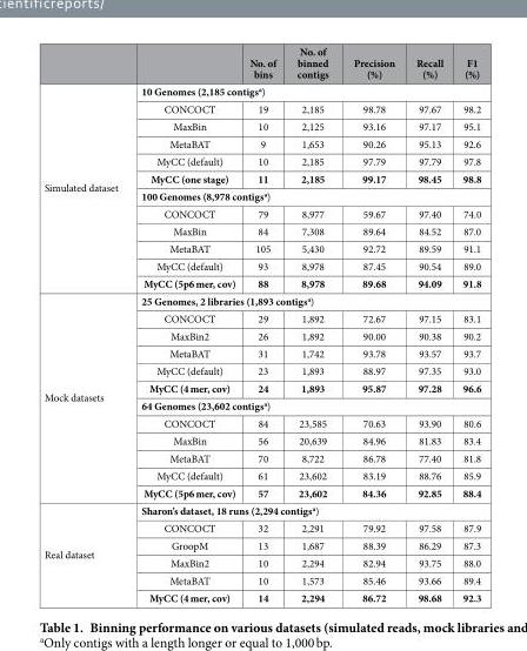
<table><thead><tr><td></td><td></td><td>No. of bins</td><td>No. of binned contigs</td><td>Precision (%)</td><td>Recall (%)</td><td>F1 (%)</td></tr></thead><tbody><tr><td rowspan="12">Simulated dataset</td><td colspan="6">10 Genomes (2,185 contigs<sup>a</sup>)</td></tr><tr><td>CONCOCT</td><td>19</td><td>2,185</td><td>98.78</td><td>97.67</td><td>98.2</td></tr><tr><td>MaxBin</td><td>10</td><td>2,125</td><td>93.16</td><td>97.17</td><td>95.1</td></tr><tr><td>MetaBAT</td><td>9</td><td>1,653</td><td>90.26</td><td>95.13</td><td>92.6</td></tr><tr><td>MyCC (default)</td><td>10</td><td>2,185</td><td>97.79</td><td>97.79</td><td>97.8</td></tr><tr><td>MyCC (one stage)</td><td>11</td><td>2,185</td><td>99.17</td><td>98.45</td><td>98.8</td></tr><tr><td colspan="6">100 Genomes (8,978 contigs<sup>a</sup>)</td></tr><tr><td>CONCOCT</td><td>79</td><td>8,977</td><td>59.67</td><td>97.40</td><td>74.0</td></tr><tr><td>MaxBin</td><td>84</td><td>7,308</td><td>89.64</td><td>84.52</td><td>87.0</td></tr><tr><td>MetaBAT</td><td>105</td><td>5,430</td><td>92.72</td><td>89.59</td><td>91.1</td></tr><tr><td>MyCC (default)</td><td>93</td><td>8,978</td><td>87.45</td><td>90.54</td><td>89.0</td></tr><tr><td>MyCC (5p6 mer, cov)</td><td>88</td><td>8,978</td><td>89.68</td><td>94.09</td><td>91.8</td></tr><tr><td rowspan="12">Mock datasets</td><td colspan="6">25 Genomes, 2 libraries (1,893 contigs<sup>a</sup>)</td></tr><tr><td>CONCOCT</td><td>29</td><td>1,892</td><td>72.67</td><td>97.15</td><td>83.1</td></tr><tr><td>MaxBin2</td><td>26</td><td>1,892</td><td>90.00</td><td>90.38</td><td>90.2</td></tr><tr><td>MetaBAT</td><td>31</td><td>1,742</td><td>93.78</td><td>93.57</td><td>93.7</td></tr><tr><td>MyCC (default)</td><td>23</td><td>1,893</td><td>88.97</td><td>97.35</td><td>93.0</td></tr><tr><td>MyCC (4 mer, cov)</td><td>24</td><td>1,893</td><td>95.87</td><td>97.28</td><td>96.6</td></tr><tr><td colspan="6">64 Genomes (23,602 contigs<sup>a</sup>)</td></tr><tr><td>CONCOCT</td><td>84</td><td>23,585</td><td>70.63</td><td>93.90</td><td>80.6</td></tr><tr><td>MaxBin</td><td>56</td><td>20,639</td><td>84.96</td><td>81.83</td><td>83.4</td></tr><tr><td>MetaBAT</td><td>70</td><td>8,722</td><td>86.78</td><td>77.40</td><td>81.8</td></tr><tr><td>MyCC (default)</td><td>61</td><td>23,602</td><td>83.19</td><td>88.76</td><td>85.9</td></tr><tr><td>MyCC (5p6 mer, cov)</td><td>57</td><td>23,602</td><td>84.36</td><td>92.85</td><td>88.4</td></tr><tr><td rowspan="6">Real dataset</td><td colspan="6">Sharon’s dataset, 18 runs (2,294 contigs<sup>a</sup>)</td></tr><tr><td>CONCOCT</td><td>32</td><td>2,291</td><td>79.92</td><td>97.58</td><td>87.9</td></tr><tr><td>GroopM</td><td>13</td><td>1,687</td><td>88.39</td><td>86.29</td><td>87.3</td></tr><tr><td>MaxBin2</td><td>10</td><td>2,294</td><td>82.94</td><td>93.75</td><td>88.0</td></tr><tr><td>MetaBAT</td><td>10</td><td>1,573</td><td>85.46</td><td>93.66</td><td>89.4</td></tr><tr><td>MyCC (4 mer, cov)</td><td>14</td><td>2,294</td><td>86.72</td><td>98.68</td><td>92.3</td></tr></tbody></table>